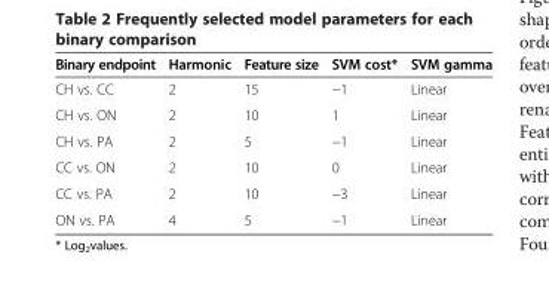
<table><thead><tr><td>Binary endpoint</td><td>Harmonic</td><td>Feature size</td><td>SVM cost*</td><td>SVM gamma</td></tr></thead><tbody><tr><td>CH vs. CC</td><td>2</td><td>15</td><td>−1</td><td>Linear</td></tr><tr><td>CH vs. ON</td><td>2</td><td>10</td><td>1</td><td>Linear</td></tr><tr><td>CH vs. PA</td><td>2</td><td>5</td><td>−1</td><td>Linear</td></tr><tr><td>CC vs. ON</td><td>2</td><td>10</td><td>0</td><td>Linear</td></tr><tr><td>CC vs. PA</td><td>2</td><td>10</td><td>−3</td><td>Linear</td></tr><tr><td>ON vs. PA</td><td>4</td><td>5</td><td>−1</td><td>Linear</td></tr></tbody></table>